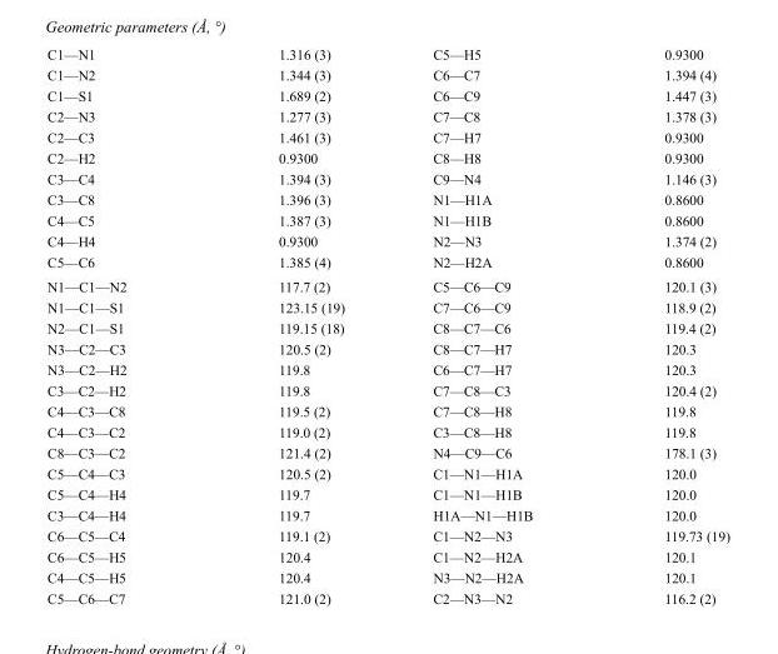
<table><tbody><tr><td>C1—N1</td><td>1.316 (3)</td><td>C5—H5</td><td>0.9300</td></tr><tr><td>C1—N2</td><td>1.344 (3)</td><td>C6—C7</td><td>1.394 (4)</td></tr><tr><td>C1—S1</td><td>1.689 (2)</td><td>C6—C9</td><td>1.447 (3)</td></tr><tr><td>C2—N3</td><td>1.277 (3)</td><td>C7—C8</td><td>1.378 (3)</td></tr><tr><td>C2—C3</td><td>1.461 (3)</td><td>C7—H7</td><td>0.9300</td></tr><tr><td>C2—H2</td><td>0.9300</td><td>C8—H8</td><td>0.9300</td></tr><tr><td>C3—C4</td><td>1.394 (3)</td><td>C9—N4</td><td>1.146 (3)</td></tr><tr><td>C3—C8</td><td>1.396 (3)</td><td>N1—H1A</td><td>0.8600</td></tr><tr><td>C4—C5</td><td>1.387 (3)</td><td>N1—H1B</td><td>0.8600</td></tr><tr><td>C4—H4</td><td>0.9300</td><td>N2—N3</td><td>1.374 (2)</td></tr><tr><td>C5—C6</td><td>1.385 (4)</td><td>N2—H2A</td><td>0.8600</td></tr><tr><td>N1—C1—N2</td><td>117.7 (2)</td><td>C5—C6—C9</td><td>120.1 (3)</td></tr><tr><td>N1—C1—S1</td><td>123.15 (19)</td><td>C7—C6—C9</td><td>118.9 (2)</td></tr><tr><td>N2—C1—S1</td><td>119.15 (18)</td><td>C8—C7—C6</td><td>119.4 (2)</td></tr><tr><td>N3—C2—C3</td><td>120.5 (2)</td><td>C8—C7—H7</td><td>120.3</td></tr><tr><td>N3—C2—H2</td><td>119.8</td><td>C6—C7—H7</td><td>120.3</td></tr><tr><td>C3—C2—H2</td><td>119.8</td><td>C7—C8—C3</td><td>120.4 (2)</td></tr><tr><td>C4—C3—C8</td><td>119.5 (2)</td><td>C7—C8—H8</td><td>119.8</td></tr><tr><td>C4—C3—C2</td><td>119.0 (2)</td><td>C3—C8—H8</td><td>119.8</td></tr><tr><td>C8—C3—C2</td><td>121.4 (2)</td><td>N4—C9—C6</td><td>178.1 (3)</td></tr><tr><td>C5—C4—C3</td><td>120.5 (2)</td><td>C1—N1—H1A</td><td>120.0</td></tr><tr><td>C5—C4—H4</td><td>119.7</td><td>C1—N1—H1B</td><td>120.0</td></tr><tr><td>C3—C4—H4</td><td>119.7</td><td>H1A—N1—H1B</td><td>120.0</td></tr><tr><td>C6—C5—C4</td><td>119.1 (2)</td><td>C1—N2—N3</td><td>119.73 (19)</td></tr><tr><td>C6—C5—H5</td><td>120.4</td><td>C1—N2—H2A</td><td>120.1</td></tr><tr><td>C4—C5—H5</td><td>120.4</td><td>N3—N2—H2A</td><td>120.1</td></tr><tr><td>C5—C6—C7</td><td>121.0 (2)</td><td>C2—N3—N2</td><td>116.2 (2)</td></tr></tbody></table>